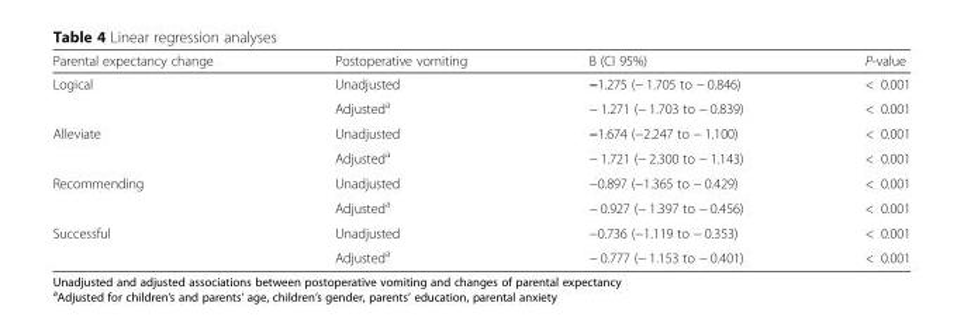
<table><thead><tr><td>Parental expectancy change</td><td>Postoperative vomiting</td><td>B (CI 95%)</td><td>P-value</td></tr></thead><tbody><tr><td rowspan="2">Logical</td><td>Unadjusted</td><td>−1.275 (− 1.705 to − 0.846)</td><td>&lt; 0.001</td></tr><tr><td>Adjusted<sup>a</sup></td><td>− 1.271 (− 1.703 to − 0.839)</td><td>&lt; 0.001</td></tr><tr><td rowspan="2">Alleviate</td><td>Unadjusted</td><td>−1.674 (−2.247 to − 1.100)</td><td>&lt; 0.001</td></tr><tr><td>Adjusted<sup>a</sup></td><td>− 1.721 (− 2.300 to − 1.143)</td><td>&lt; 0.001</td></tr><tr><td rowspan="2">Recommending</td><td>Unadjusted</td><td>−0.897 (−1.365 to − 0.429)</td><td>&lt; 0.001</td></tr><tr><td>Adjusted<sup>a</sup></td><td>− 0.927 (− 1.397 to − 0.456)</td><td>&lt; 0.001</td></tr><tr><td rowspan="2">Successful</td><td>Unadjusted</td><td>−0.736 (−1.119 to − 0.353)</td><td>&lt; 0.001</td></tr><tr><td>Adjusted<sup>a</sup></td><td>− 0.777 (− 1.153 to − 0.401)</td><td>&lt; 0.001</td></tr></tbody></table>